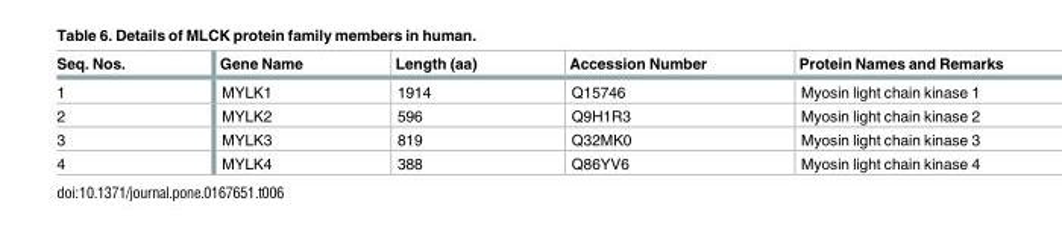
<table><thead><tr><td>Seq. Nos.</td><td>Gene Name</td><td>Length (aa)</td><td>Accession Number</td><td>Protein Names and Remarks</td></tr></thead><tbody><tr><td>1</td><td>MYLK1</td><td>1914</td><td>Q15746</td><td>Myosin light chain kinase 1</td></tr><tr><td>2</td><td>MYLK2</td><td>596</td><td>Q9H1R3</td><td>Myosin light chain kinase 2</td></tr><tr><td>3</td><td>MYLK3</td><td>819</td><td>Q32MK0</td><td>Myosin light chain kinase 3</td></tr><tr><td>4</td><td>MYLK4</td><td>388</td><td>Q86YV6</td><td>Myosin light chain kinase 4</td></tr></tbody></table>